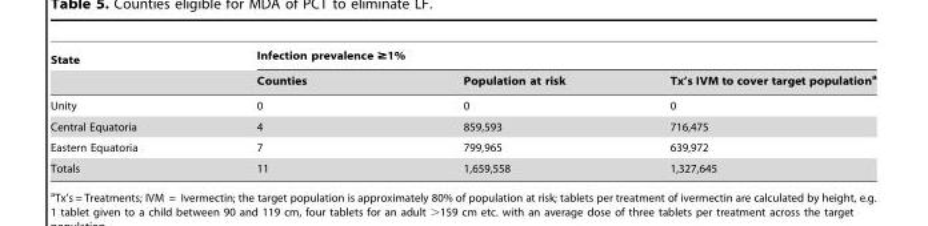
<table><thead><tr><td rowspan="2">State</td><td colspan="3">Infection prevalence ≥1%</td></tr><tr><td>Counties</td><td>Population at risk</td><td>Tx’s IVM to cover target population<sup>a</sup></td></tr></thead><tbody><tr><td>Unity</td><td>0</td><td>0</td><td>0</td></tr><tr><td>Central Equatoria</td><td>4</td><td>859,593</td><td>716,475</td></tr><tr><td>Eastern Equatoria</td><td>7</td><td>799,965</td><td>639,972</td></tr><tr><td>Totals</td><td>11</td><td>1,659,558</td><td>1,327,645</td></tr></tbody></table>